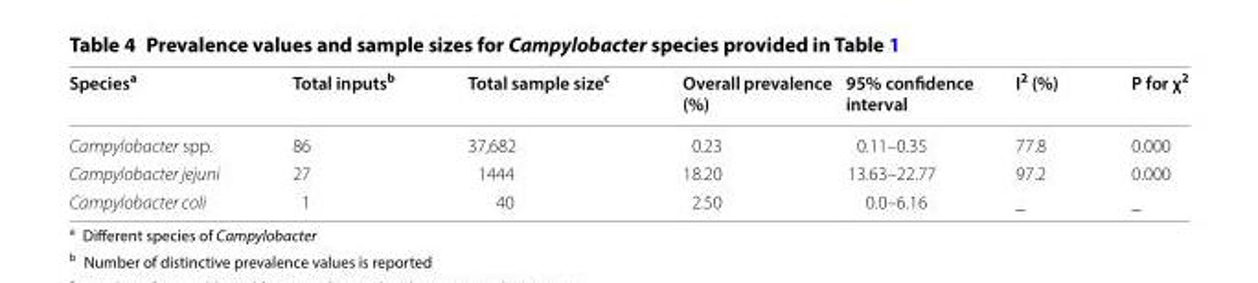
<table><thead><tr><td>Species<sup>a</sup></td><td>Total inputs<sup>b</sup></td><td>Total sample size<sup>c</sup></td><td>Overall prevalence (%)</td><td>95% confidence interval</td><td>I<sup>2</sup> (%)</td><td>P for χ<sup>2</sup></td></tr></thead><tbody><tr><td>Campylobacter spp.</td><td>86</td><td>37,682</td><td>0.23</td><td>0.11–0.35</td><td>77.8</td><td>0.000</td></tr><tr><td>Campylobacter jejuni</td><td>27</td><td>1444</td><td>18.20</td><td>13.63–22.77</td><td>97.2</td><td>0.000</td></tr><tr><td>Campylobacter coli</td><td>1</td><td>40</td><td>2.50</td><td>0.0–6.16</td><td>_</td><td>_</td></tr></tbody></table>